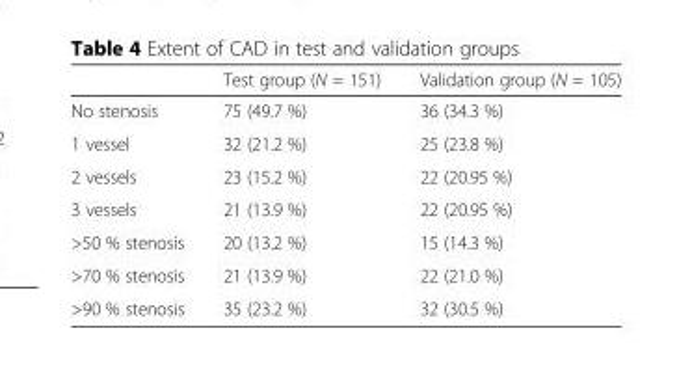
<table><thead><tr><td></td><td>Test group (N = 151)</td><td>Validation group (N = 105)</td></tr></thead><tbody><tr><td>No stenosis</td><td>75 (49.7 %)</td><td>36 (34.3 %)</td></tr><tr><td>1 vessel</td><td>32 (21.2 %)</td><td>25 (23.8 %)</td></tr><tr><td>2 vessels</td><td>23 (15.2 %)</td><td>22 (20.95 %)</td></tr><tr><td>3 vessels</td><td>21 (13.9 %)</td><td>22 (20.95 %)</td></tr><tr><td>&gt;50 % stenosis</td><td>20 (13.2 %)</td><td>15 (14.3 %)</td></tr><tr><td>&gt;70 % stenosis</td><td>21 (13.9 %)</td><td>22 (21.0 %)</td></tr><tr><td>&gt;90 % stenosis</td><td>35 (23.2 %)</td><td>32 (30.5 %)</td></tr></tbody></table>